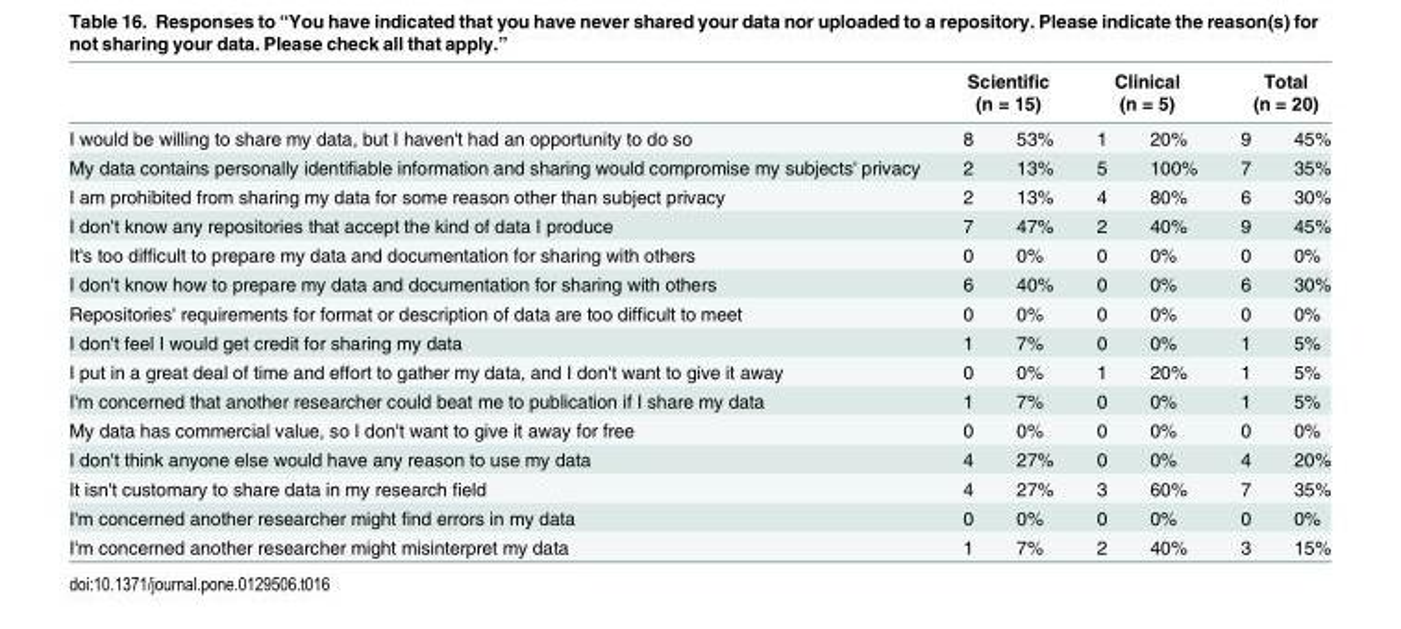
<table><thead><tr><td rowspan="2">I would be willing to share my data, but I haven&#x27;t had an opportunity to do so</td><td colspan="2">Scientific (n = 15)</td><td colspan="2">Clinical (n = 5)</td><td colspan="2">Total (n = 20)</td></tr><tr><td>8</td><td>53%</td><td>1</td><td>20%</td><td>9</td><td>45%</td></tr></thead><tbody><tr><td>My data contains personally identifiable information and sharing would compromise my subjects&#x27; privacy</td><td>2</td><td>13%</td><td>5</td><td>100%</td><td>7</td><td>35%</td></tr><tr><td>I am prohibited from sharing my data for some reason other than subject privacy</td><td>2</td><td>13%</td><td>4</td><td>80%</td><td>6</td><td>30%</td></tr><tr><td>I don&#x27;t know any repositories that accept the kind of data I produce</td><td>7</td><td>47%</td><td>2</td><td>40%</td><td>9</td><td>45%</td></tr><tr><td>It&#x27;s too difficult to prepare my data and documentation for sharing with others</td><td>0</td><td>0%</td><td>0</td><td>0%</td><td>0</td><td>0%</td></tr><tr><td>I don&#x27;t know how to prepare my data and documentation for sharing with others</td><td>6</td><td>40%</td><td>0</td><td>0%</td><td>6</td><td>30%</td></tr><tr><td>Repositories&#x27; requirements for format or description of data are too difficult to meet</td><td>0</td><td>0%</td><td>0</td><td>0%</td><td>0</td><td>0%</td></tr><tr><td>I don&#x27;t feel I would get credit for sharing my data</td><td>1</td><td>7%</td><td>0</td><td>0%</td><td>1</td><td>5%</td></tr><tr><td>I put in a great deal of time and effort to gather my data, and I don&#x27;t want to give it away</td><td>0</td><td>0%</td><td>1</td><td>20%</td><td>1</td><td>5%</td></tr><tr><td>I&#x27;m concerned that another researcher could beat me to publication if I share my data</td><td>1</td><td>7%</td><td>0</td><td>0%</td><td>1</td><td>5%</td></tr><tr><td>My data has commercial value, so I don&#x27;t want to give it away for free</td><td>0</td><td>0%</td><td>0</td><td>0%</td><td>0</td><td>0%</td></tr><tr><td>I don&#x27;t think anyone else would have any reason to use my data</td><td>4</td><td>27%</td><td>0</td><td>0%</td><td>4</td><td>20%</td></tr><tr><td>It isn&#x27;t customary to share data in my research field</td><td>4</td><td>27%</td><td>3</td><td>60%</td><td>7</td><td>35%</td></tr><tr><td>I&#x27;m concerned another researcher might find errors in my data</td><td>0</td><td>0%</td><td>0</td><td>0%</td><td>0</td><td>0%</td></tr><tr><td>I&#x27;m concerned another researcher might misinterpret my data</td><td>1</td><td>7%</td><td>2</td><td>40%</td><td>3</td><td>15%</td></tr></tbody></table>